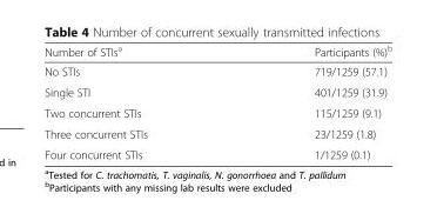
<table><thead><tr><td>Number of STIs<sup>a</sup></td><td>Participants (%)<sup>b</sup></td></tr></thead><tbody><tr><td>No STIs</td><td>719/1259 (57.1)</td></tr><tr><td>Single STI</td><td>401/1259 (31.9)</td></tr><tr><td>Two concurrent STIs</td><td>115/1259 (9.1)</td></tr><tr><td>Three concurrent STIs</td><td>23/1259 (1.8)</td></tr><tr><td>Four concurrent STIs</td><td>1/1259 (0.1)</td></tr></tbody></table>